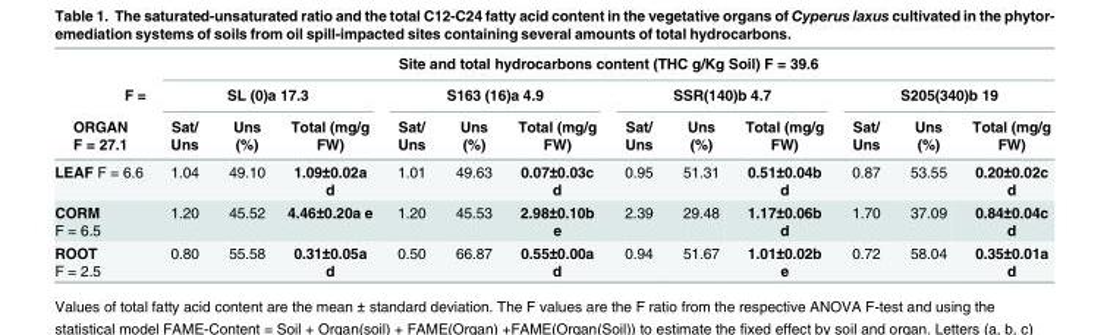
<table><thead><tr><td rowspan="3">F = ORGAN F = 27.1</td><td colspan="12">Site and total hydrocarbons content (THC g/Kg Soil) F = 39.6</td></tr><tr><td colspan="3">SL (0)a 17.3</td><td colspan="3">S163 (16)a 4.9</td><td colspan="3">SSR(140)b 4.7</td><td colspan="3">S205(340)b 19</td></tr><tr><td>Sat/ Uns</td><td>Uns (%)</td><td>Total (mg/g FW)</td><td>Sat/ Uns</td><td>Uns (%)</td><td>Total (mg/g FW)</td><td>Sat/ Uns</td><td>Uns (%)</td><td>Total (mg/g FW)</td><td>Sat/ Uns</td><td>Uns (%)</td><td>Total (mg/g FW)</td></tr></thead><tbody><tr><td>LEAF F = 6.6</td><td>1.04</td><td>49.10</td><td>1.09±0.02a d</td><td>1.01</td><td>49.63</td><td>0.07±0.03c d</td><td>0.95</td><td>51.31</td><td>0.51±0.04b d</td><td>0.87</td><td>53.55</td><td>0.20±0.02c d</td></tr><tr><td>CORM F = 6.5</td><td>1.20</td><td>45.52</td><td>4.46±0.20a e</td><td>1.20</td><td>45.53</td><td>2.98±0.10b e</td><td>2.39</td><td>29.48</td><td>1.17±0.06b d</td><td>1.70</td><td>37.09</td><td>0.84±0.04c d</td></tr><tr><td>ROOT F = 2.5</td><td>0.80</td><td>55.58</td><td>0.31±0.05a d</td><td>0.50</td><td>66.87</td><td>0.55±0.00a d</td><td>0.94</td><td>51.67</td><td>1.01±0.02b e</td><td>0.72</td><td>58.04</td><td>0.35±0.01a d</td></tr></tbody></table>